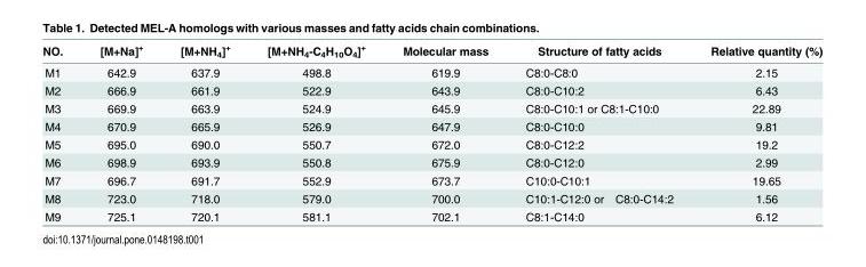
<table><thead><tr><td>NO.</td><td>[M+Na]<sup>+</sup></td><td>[M+NH<sub>4</sub>]<sup>+</sup></td><td>[M+NH<sub>4</sub>-C<sub>4</sub>H<sub>10</sub>O<sub>4</sub>]<sup>+</sup></td><td>Molecular mass</td><td>Structure of fatty acids</td><td>Relative quantity (%)</td></tr></thead><tbody><tr><td>M1</td><td>642.9</td><td>637.9</td><td>498.8</td><td>619.9</td><td>C8:0-C8:0</td><td>2.15</td></tr><tr><td>M2</td><td>666.9</td><td>661.9</td><td>522.9</td><td>643.9</td><td>C8:0-C10:2</td><td>6.43</td></tr><tr><td>M3</td><td>669.9</td><td>663.9</td><td>524.9</td><td>645.9</td><td>C8:0-C10:1 or C8:1-C10:0</td><td>22.89</td></tr><tr><td>M4</td><td>670.9</td><td>665.9</td><td>526.9</td><td>647.9</td><td>C8:0-C10:0</td><td>9.81</td></tr><tr><td>M5</td><td>695.0</td><td>690.0</td><td>550.7</td><td>672.0</td><td>C8:0-C12:2</td><td>19.2</td></tr><tr><td>M6</td><td>698.9</td><td>693.9</td><td>550.8</td><td>675.9</td><td>C8:0-C12:0</td><td>2.99</td></tr><tr><td>M7</td><td>696.7</td><td>691.7</td><td>552.9</td><td>673.7</td><td>C10:0-C10:1</td><td>19.65</td></tr><tr><td>M8</td><td>723.0</td><td>718.0</td><td>579.0</td><td>700.0</td><td>C10:1-C12:0 or C8:0-C14:2</td><td>1.56</td></tr><tr><td>M9</td><td>725.1</td><td>720.1</td><td>581.1</td><td>702.1</td><td>C8:1-C14:0</td><td>6.12</td></tr></tbody></table>